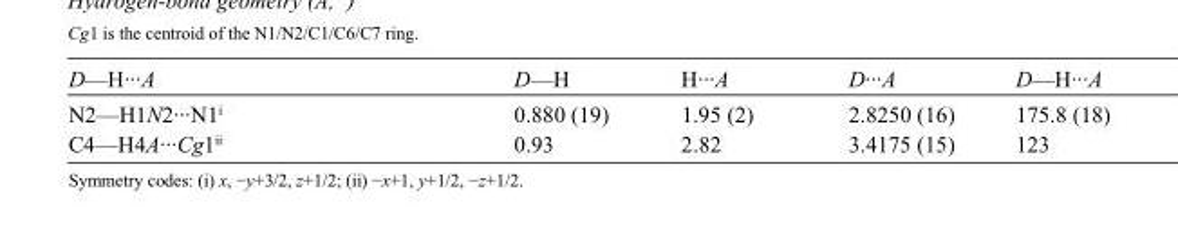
<table><tbody><tr><td>D—H···A</td><td>D—H</td><td>H···A</td><td>D···A</td><td>D—H···A</td></tr><tr><td>N2—H1N2···N1<sup>i</sup></td><td>0.880 (19)</td><td>1.95 (2)</td><td>2.8250 (16)</td><td>175.8 (18)</td></tr><tr><td>C4—H4A···Cg1<sup>ii</sup></td><td>0.93</td><td>2.82</td><td>3.4175 (15)</td><td>123</td></tr></tbody></table>